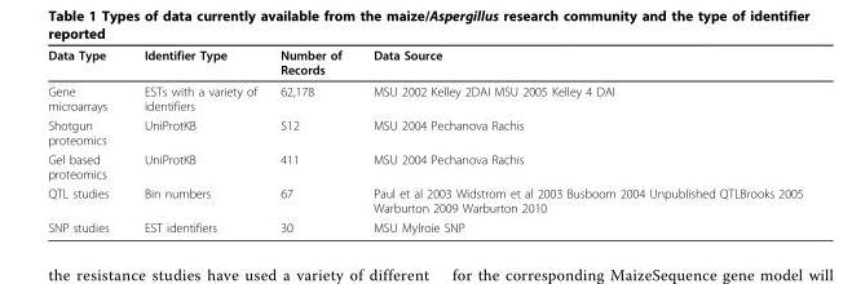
<table><thead><tr><td>Data Type</td><td>Identifier Type</td><td>Number of Records</td><td>Data Source</td></tr></thead><tbody><tr><td>Gene microarrays</td><td>ESTs with a variety of identifiers</td><td>62,178</td><td>MSU 2002 Kelley 2DAI MSU 2005 Kelley 4 DAI</td></tr><tr><td>Shotgun proteomics</td><td>UniProtKB</td><td>512</td><td>MSU 2004 Pechanova Rachis</td></tr><tr><td>Gel based proteomics</td><td>UniProtKB</td><td>411</td><td>MSU 2004 Pechanova Rachis</td></tr><tr><td>QTL studies</td><td>Bin numbers</td><td>67</td><td>Paul et al 2003 Widstrom et al 2003 Busboom 2004 Unpublished QTLBrooks 2005 Warburton 2009 Warburton 2010</td></tr><tr><td>SNP studies</td><td>EST identifiers</td><td>30</td><td>MSU Mylroie SNP</td></tr></tbody></table>